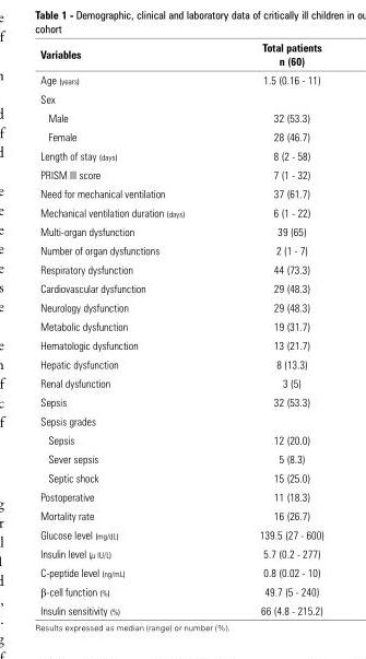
<table><thead><tr><td>Variables</td><td>Total patients n (60)</td></tr></thead><tbody><tr><td>Age (years)</td><td>1.5 (0.16 - 11)</td></tr><tr><td colspan="2">Sex</td></tr><tr><td>Male</td><td>32 (53.3)</td></tr><tr><td>Female</td><td>28 (46.7)</td></tr><tr><td>Length of stay (days)</td><td>8 (2 - 58)</td></tr><tr><td>PRISM III score</td><td>7 (1 - 32)</td></tr><tr><td>Need for mechanical ventilation</td><td>37 (61.7)</td></tr><tr><td>Mechanical ventilation duration (days)</td><td>6 (1 - 22)</td></tr><tr><td>Multi-organ dysfunction</td><td>39 (65)</td></tr><tr><td>Number of organ dysfunctions</td><td>2 (1 - 7)</td></tr><tr><td>Respiratory dysfunction</td><td>44 (73.3)</td></tr><tr><td>Cardiovascular dysfunction</td><td>29 (48.3)</td></tr><tr><td>Neurology dysfunction</td><td>29 (48.3)</td></tr><tr><td>Metabolic dysfunction</td><td>19 (31.7)</td></tr><tr><td>Hematologic dysfunction</td><td>13 (21.7)</td></tr><tr><td>Hepatic dysfunction</td><td>8 (13.3)</td></tr><tr><td>Renal dysfunction</td><td>3 (5)</td></tr><tr><td>Sepsis</td><td>32 (53.3)</td></tr><tr><td colspan="2">Sepsis grades</td></tr><tr><td>Sepsis</td><td>12 (20.0)</td></tr><tr><td>Sever sepsis</td><td>5 (8.3)</td></tr><tr><td>Septic shock</td><td>15 (25.0)</td></tr><tr><td>Postoperative</td><td>11 (18.3)</td></tr><tr><td>Mortality rate</td><td>16 (26.7)</td></tr><tr><td>Glucose level (mg/dL)</td><td>139.5 (27 - 600)</td></tr><tr><td>Insulin level (μ IU/L)</td><td>5.7 (0.2 - 277)</td></tr><tr><td>C-peptide level (ng/mL)</td><td>0.8 (0.02 - 10)</td></tr><tr><td>β-cell function (%)</td><td>49.7 (5 - 240)</td></tr><tr><td>Insulin sensitivity (%)</td><td>66 (4.8 - 215.2)</td></tr></tbody></table>